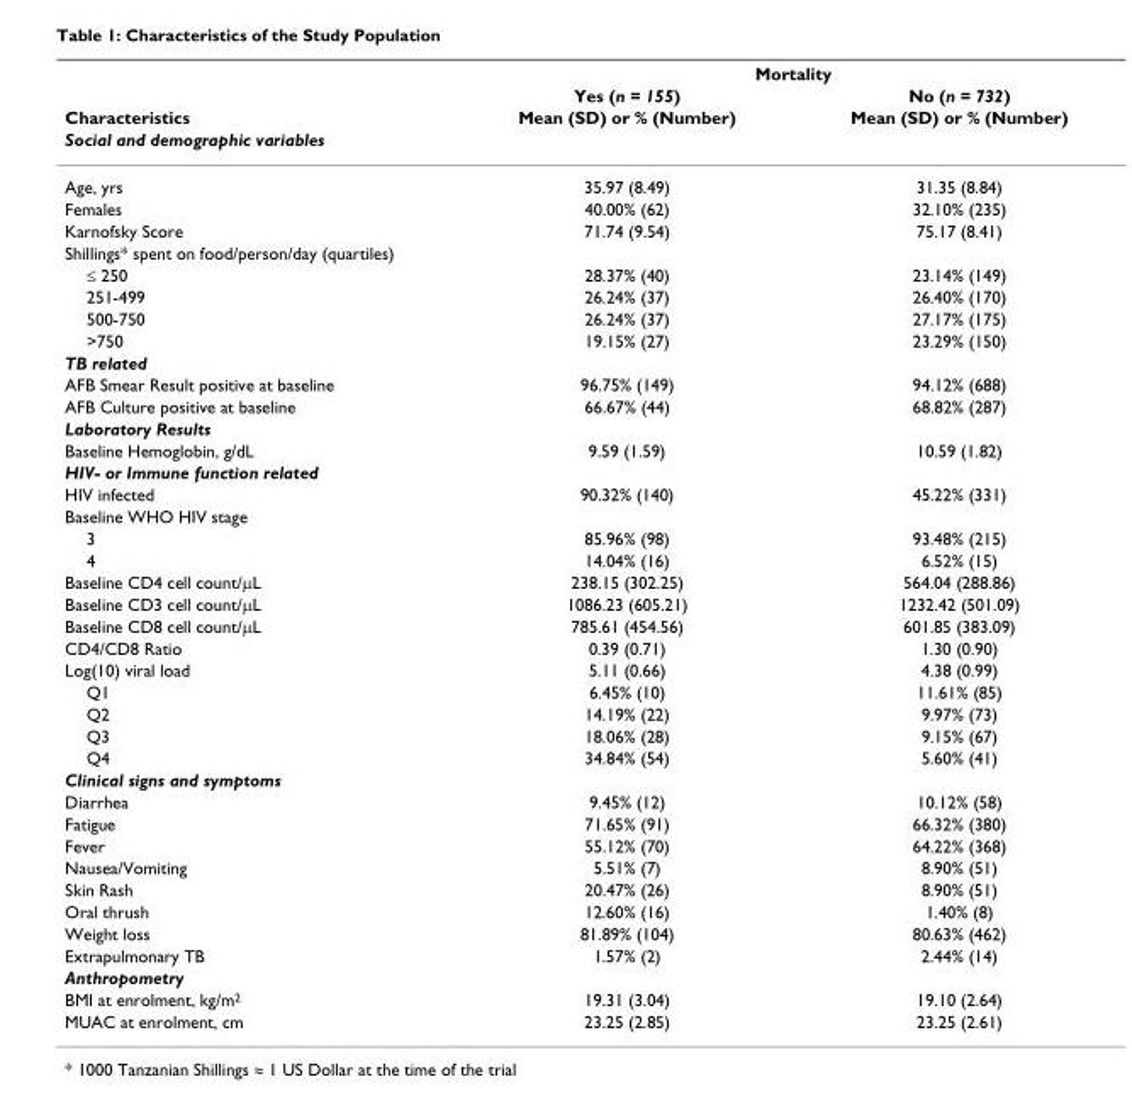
<table><thead><tr><td rowspan="4">Characteristics Social and demographic variables</td><td colspan="2">Mortality</td></tr><tr><td rowspan="3">Yes (n = 155) Mean (SD) or % (Number)</td><td rowspan="3">No (n = 732) Mean (SD) or % (Number)</td></tr><tr></tr><tr></tr></thead><tbody><tr><td>Age, yrs</td><td>35.97 (8.49)</td><td>31.35 (8.84)</td></tr><tr><td>Females</td><td>40.00% (62)</td><td>32.10% (235)</td></tr><tr><td>Karnofsky Score</td><td>71.74 (9.54)</td><td>75.17 (8.41)</td></tr><tr><td colspan="3">Shillings* spent on food/person/day (quartiles)</td></tr><tr><td>≤ 250</td><td>28.37% (40)</td><td>23.14% (149)</td></tr><tr><td>251-499</td><td>26.24% (37)</td><td>26.40% (170)</td></tr><tr><td>500-750</td><td>26.24% (37)</td><td>27.17% (175)</td></tr><tr><td>&gt;750</td><td>19.15% (27)</td><td>23.29% (150)</td></tr><tr><td colspan="3">TB related</td></tr><tr><td>AFB Smear Result positive at baseline</td><td>96.75% (149)</td><td>94.12% (688)</td></tr><tr><td>AFB Culture positive at baseline</td><td>66.67% (44)</td><td>68.82% (287)</td></tr><tr><td colspan="3">Laboratory Results</td></tr><tr><td>Baseline Hemoglobin, g/dL</td><td>9.59 (1.59)</td><td>10.59 (1.82)</td></tr><tr><td colspan="3">HIV- or Immune function related</td></tr><tr><td>HIV infected</td><td>90.32% (140)</td><td>45.22% (331)</td></tr><tr><td colspan="3">Baseline WHO HIV stage</td></tr><tr><td>3</td><td>85.96% (98)</td><td>93.48% (215)</td></tr><tr><td>4</td><td>14.04% (16)</td><td>6.52% (15)</td></tr><tr><td>Baseline CD4 cell count/μL</td><td>238.15 (302.25)</td><td>564.04 (288.86)</td></tr><tr><td>Baseline CD3 cell count/μL</td><td>1086.23 (605.21)</td><td>1232.42 (501.09)</td></tr><tr><td>Baseline CD8 cell count/μL</td><td>785.61 (454.56)</td><td>601.85 (383.09)</td></tr><tr><td>CD4/CD8 Ratio</td><td>0.39 (0.71)</td><td>1.30 (0.90)</td></tr><tr><td>Log(10) viral load</td><td>5.11 (0.66)</td><td>4.38 (0.99)</td></tr><tr><td>Q1</td><td>6.45% (10)</td><td>11.61% (85)</td></tr><tr><td>Q2</td><td>14.19% (22)</td><td>9.97% (73)</td></tr><tr><td>Q3</td><td>18.06% (28)</td><td>9.15% (67)</td></tr><tr><td>Q4</td><td>34.84% (54)</td><td>5.60% (41)</td></tr><tr><td colspan="3">Clinical signs and symptoms</td></tr><tr><td>Diarrhea</td><td>9.45% (12)</td><td>10.12% (58)</td></tr><tr><td>Fatigue</td><td>71.65% (91)</td><td>66.32% (380)</td></tr><tr><td>Fever</td><td>55.12% (70)</td><td>64.22% (368)</td></tr><tr><td>Nausea/Vomiting</td><td>5.51% (7)</td><td>8.90% (51)</td></tr><tr><td>Skin Rash</td><td>20.47% (26)</td><td>8.90% (51)</td></tr><tr><td>Oral thrush</td><td>12.60% (16)</td><td>1.40% (8)</td></tr><tr><td>Weight loss</td><td>81.89% (104)</td><td>80.63% (462)</td></tr><tr><td>Extrapulmonary TB</td><td>1.57% (2)</td><td>2.44% (14)</td></tr><tr><td colspan="3">Anthropometry</td></tr><tr><td>BMI at enrolment, kg/m<sup>2</sup></td><td>19.31 (3.04)</td><td>19.10 (2.64)</td></tr><tr><td>MUAC at enrolment, cm</td><td>23.25 (2.85)</td><td>23.25 (2.61)</td></tr></tbody></table>